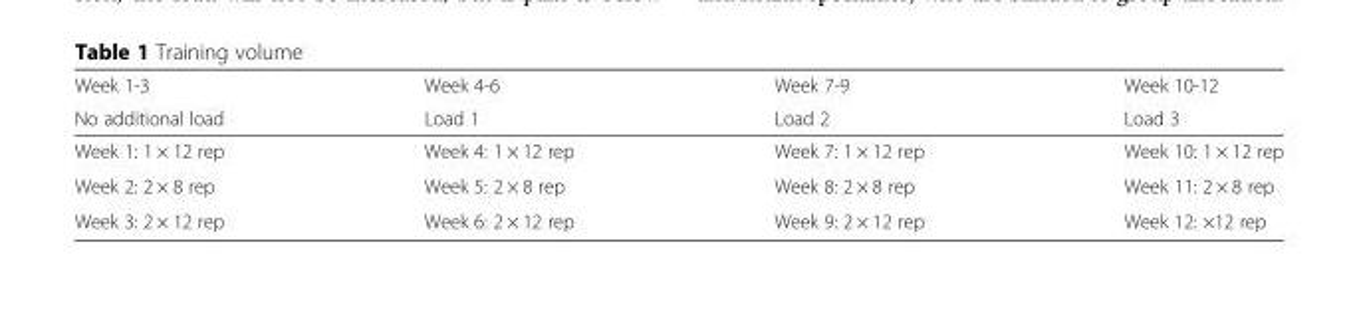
<table><thead><tr><td rowspan="2">Week 1-3 No additional load</td><td rowspan="2">Week 4-6 Load 1</td><td rowspan="2">Week 7-9 Load 2</td><td rowspan="2">Week 10-12 Load 3</td></tr><tr></tr></thead><tbody><tr><td>Week 1: 1 × 12 rep</td><td>Week 4: 1 × 12 rep</td><td>Week 7: 1 × 12 rep</td><td>Week 10: 1 × 12 rep</td></tr><tr><td>Week 2: 2 × 8 rep</td><td>Week 5: 2 × 8 rep</td><td>Week 8: 2 × 8 rep</td><td>Week 11: 2 × 8 rep</td></tr><tr><td>Week 3: 2 × 12 rep</td><td>Week 6: 2 × 12 rep</td><td>Week 9: 2 × 12 rep</td><td>Week 12: ×12 rep</td></tr></tbody></table>